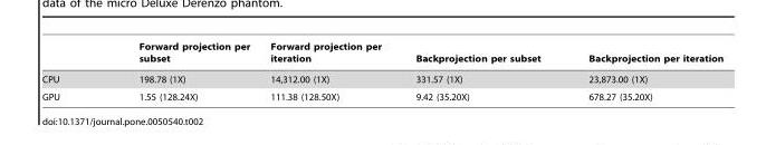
<table><thead><tr><td></td><td>Forward projection per subset</td><td>Forward projection per iteration</td><td>Backprojection per subset</td><td>Backprojection per iteration</td></tr></thead><tbody><tr><td>CPU</td><td>198.78 (1X)</td><td>14,312.00 (1X)</td><td>331.57 (1X)</td><td>23,873.00 (1X)</td></tr><tr><td>GPU</td><td>1.55 (128.24X)</td><td>111.38 (128.50X)</td><td>9.42 (35.20X)</td><td>678.27 (35.20X)</td></tr></tbody></table>